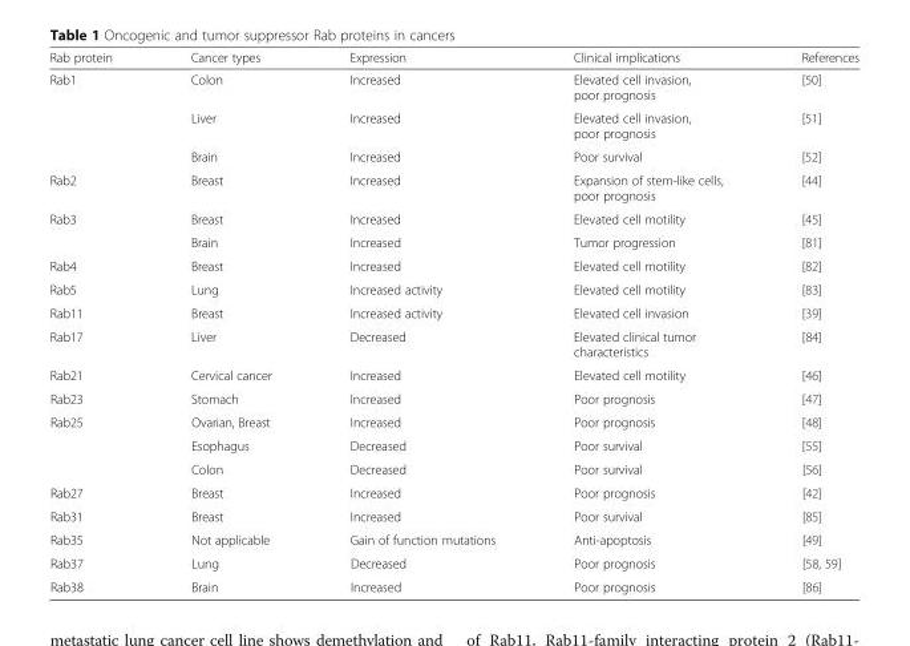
<table><thead><tr><td>Rab protein</td><td>Cancer types</td><td>Expression</td><td>Clinical implications</td><td>References</td></tr></thead><tbody><tr><td rowspan="3">Rab1</td><td>Colon</td><td>Increased</td><td>Elevated cell invasion, poor prognosis</td><td>[50]</td></tr><tr><td>Liver</td><td>Increased</td><td>Elevated cell invasion, poor prognosis</td><td>[51]</td></tr><tr><td>Brain</td><td>Increased</td><td>Poor survival</td><td>[52]</td></tr><tr><td>Rab2</td><td>Breast</td><td>Increased</td><td>Expansion of stem-like cells, poor prognosis</td><td>[44]</td></tr><tr><td rowspan="2">Rab3</td><td>Breast</td><td>Increased</td><td>Elevated cell motility</td><td>[45]</td></tr><tr><td>Brain</td><td>Increased</td><td>Tumor progression</td><td>[81]</td></tr><tr><td>Rab4</td><td>Breast</td><td>Increased</td><td>Elevated cell motility</td><td>[82]</td></tr><tr><td>Rab5</td><td>Lung</td><td>Increased activity</td><td>Elevated cell motility</td><td>[83]</td></tr><tr><td>Rab11</td><td>Breast</td><td>Increased activity</td><td>Elevated cell invasion</td><td>[39]</td></tr><tr><td>Rab17</td><td>Liver</td><td>Decreased</td><td>Elevated clinical tumor characteristics</td><td>[84]</td></tr><tr><td>Rab21</td><td>Cervical cancer</td><td>Increased</td><td>Elevated cell motility</td><td>[46]</td></tr><tr><td>Rab23</td><td>Stomach</td><td>Increased</td><td>Poor prognosis</td><td>[47]</td></tr><tr><td rowspan="3">Rab25</td><td>Ovarian, Breast</td><td>Increased</td><td>Poor prognosis</td><td>[48]</td></tr><tr><td>Esophagus</td><td>Decreased</td><td>Poor survival</td><td>[55]</td></tr><tr><td>Colon</td><td>Decreased</td><td>Poor survival</td><td>[56]</td></tr><tr><td>Rab27</td><td>Breast</td><td>Increased</td><td>Poor prognosis</td><td>[42]</td></tr><tr><td>Rab31</td><td>Breast</td><td>Increased</td><td>Poor survival</td><td>[85]</td></tr><tr><td>Rab35</td><td>Not applicable</td><td>Gain of function mutations</td><td>Anti-apoptosis</td><td>[49]</td></tr><tr><td>Rab37</td><td>Lung</td><td>Decreased</td><td>Poor prognosis</td><td>[58, 59]</td></tr><tr><td>Rab38</td><td>Brain</td><td>Increased</td><td>Poor prognosis</td><td>[86]</td></tr></tbody></table>